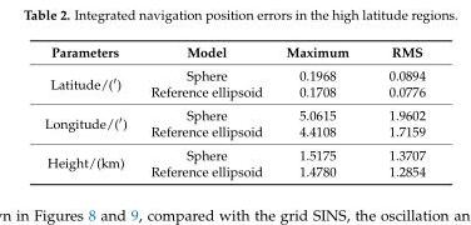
<table><thead><tr><td>Parameters</td><td>Model</td><td>Maximum</td><td>RMS</td></tr></thead><tbody><tr><td rowspan="2">Latitude/(′)</td><td>Sphere</td><td>0.1968</td><td>0.0894</td></tr><tr><td>Reference ellipsoid</td><td>0.1708</td><td>0.0776</td></tr><tr><td rowspan="2">Longitude/(′)</td><td>Sphere</td><td>5.0615</td><td>1.9602</td></tr><tr><td>Reference ellipsoid</td><td>4.4108</td><td>1.7159</td></tr><tr><td rowspan="2">Height/(km)</td><td>Sphere</td><td>1.5175</td><td>1.3707</td></tr><tr><td>Reference ellipsoid</td><td>1.4780</td><td>1.2854</td></tr></tbody></table>